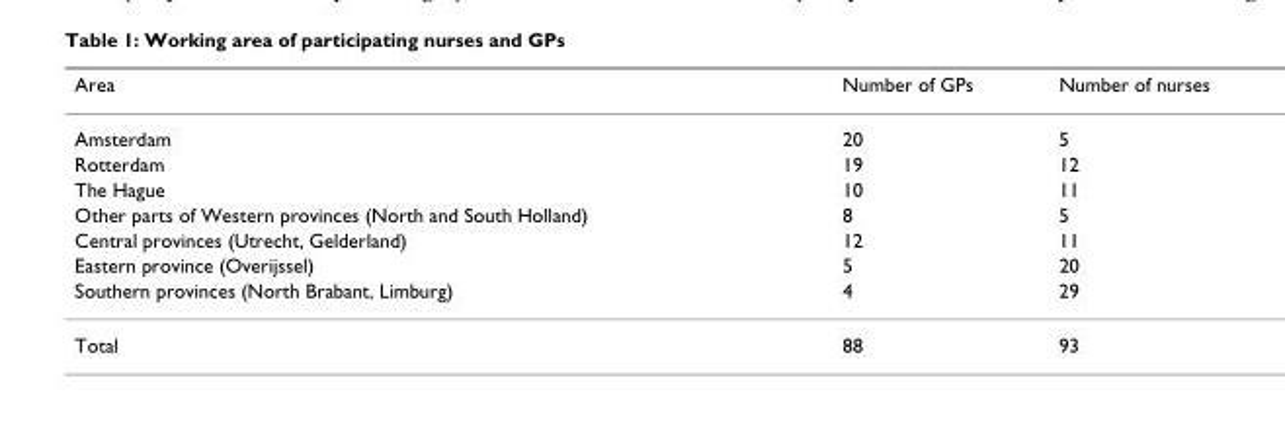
<table><thead><tr><td>Area</td><td>Number of GPs</td><td>Number of nurses</td></tr></thead><tbody><tr><td>Amsterdam</td><td>20</td><td>5</td></tr><tr><td>Rotterdam</td><td>19</td><td>12</td></tr><tr><td>The Hague</td><td>10</td><td>11</td></tr><tr><td>Other parts of Western provinces (North and South Holland)</td><td>8</td><td>5</td></tr><tr><td>Central provinces (Utrecht, Gelderland)</td><td>12</td><td>11</td></tr><tr><td>Eastern province (Overijssel)</td><td>5</td><td>20</td></tr><tr><td>Southern provinces (North Brabant, Limburg)</td><td>4</td><td>29</td></tr><tr><td>Total</td><td>88</td><td>93</td></tr></tbody></table>